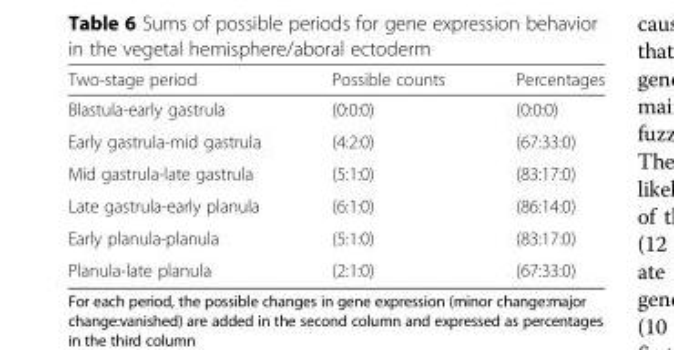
<table><thead><tr><td>Two-stage period</td><td>Possible counts</td><td>Percentages</td></tr></thead><tbody><tr><td>Blastula-early gastrula</td><td>(0:0:0)</td><td>(0:0:0)</td></tr><tr><td>Early gastrula-mid gastrula</td><td>(4:2:0)</td><td>(67:33:0)</td></tr><tr><td>Mid gastrula-late gastrula</td><td>(5:1:0)</td><td>(83:17:0)</td></tr><tr><td>Late gastrula-early planula</td><td>(6:1:0)</td><td>(86:14:0)</td></tr><tr><td>Early planula-planula</td><td>(5:1:0)</td><td>(83:17:0)</td></tr><tr><td>Planula-late planula</td><td>(2:1:0)</td><td>(67:33:0)</td></tr></tbody></table>